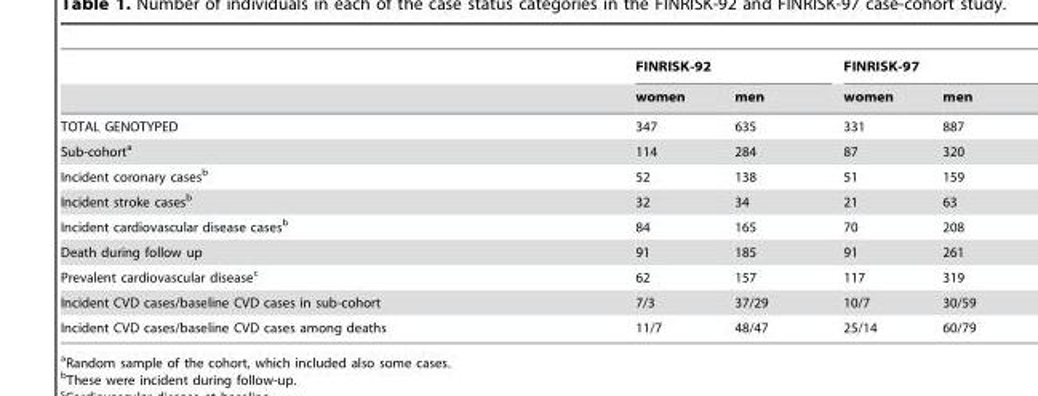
<table><thead><tr><td rowspan="2"></td><td colspan="2">FINRISK-92</td><td colspan="2">FINRISK-97</td></tr><tr><td>women</td><td>men</td><td>women</td><td>men</td></tr></thead><tbody><tr><td>TOTAL GENOTYPED</td><td>347</td><td>635</td><td>331</td><td>887</td></tr><tr><td>Sub-cohort<sup>a</sup></td><td>114</td><td>284</td><td>87</td><td>320</td></tr><tr><td>Incident coronary cases<sup>b</sup></td><td>52</td><td>138</td><td>51</td><td>159</td></tr><tr><td>Incident stroke cases<sup>b</sup></td><td>32</td><td>34</td><td>21</td><td>63</td></tr><tr><td>Incident cardiovascular disease cases<sup>b</sup></td><td>84</td><td>165</td><td>70</td><td>208</td></tr><tr><td>Death during follow up</td><td>91</td><td>185</td><td>91</td><td>261</td></tr><tr><td>Prevalent cardiovascular disease<sup>c</sup></td><td>62</td><td>157</td><td>117</td><td>319</td></tr><tr><td>Incident CVD cases/baseline CVD cases in sub-cohort</td><td>7/3</td><td>37/29</td><td>10/7</td><td>30/59</td></tr><tr><td>Incident CVD cases/baseline CVD cases among deaths</td><td>11/7</td><td>48/47</td><td>25/14</td><td>60/79</td></tr></tbody></table>